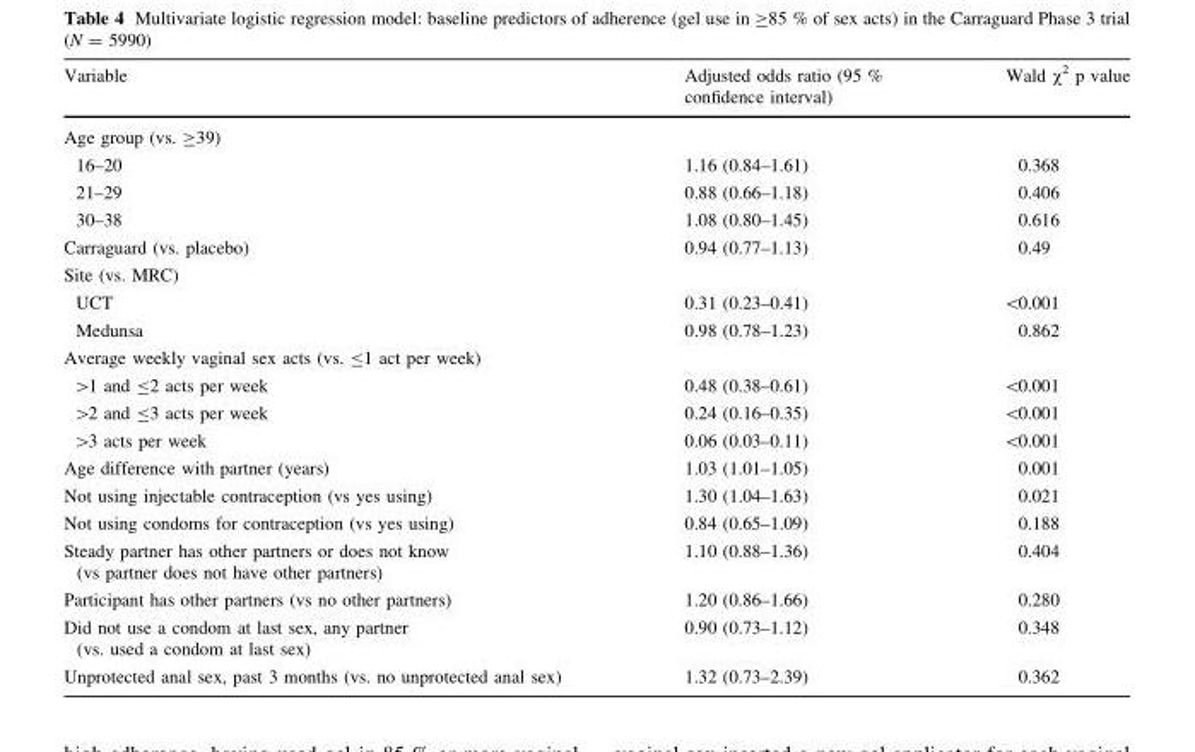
<table><thead><tr><td>Variable</td><td>Adjusted odds ratio (95 % confidence interval)</td><td>Wald χ<sup>2</sup> p value</td></tr></thead><tbody><tr><td colspan="3">Age group (vs. ≥39)</td></tr><tr><td>16–20</td><td>1.16 (0.84–1.61)</td><td>0.368</td></tr><tr><td>21–29</td><td>0.88 (0.66–1.18)</td><td>0.406</td></tr><tr><td>30–38</td><td>1.08 (0.80–1.45)</td><td>0.616</td></tr><tr><td>Carraguard (vs. placebo)</td><td>0.94 (0.77–1.13)</td><td>0.49</td></tr><tr><td colspan="3">Site (vs. MRC)</td></tr><tr><td>UCT</td><td>0.31 (0.23–0.41)</td><td>&lt;0.001</td></tr><tr><td>Medunsa</td><td>0.98 (0.78–1.23)</td><td>0.862</td></tr><tr><td colspan="3">Average weekly vaginal sex acts (vs. ≤1 act per week)</td></tr><tr><td>&gt;1 and ≤2 acts per week</td><td>0.48 (0.38–0.61)</td><td>&lt;0.001</td></tr><tr><td>&gt;2 and ≤3 acts per week</td><td>0.24 (0.16–0.35)</td><td>&lt;0.001</td></tr><tr><td>&gt;3 acts per week</td><td>0.06 (0.03–0.11)</td><td>&lt;0.001</td></tr><tr><td>Age difference with partner (years)</td><td>1.03 (1.01–1.05)</td><td>0.001</td></tr><tr><td>Not using injectable contraception (vs yes using)</td><td>1.30 (1.04–1.63)</td><td>0.021</td></tr><tr><td>Not using condoms for contraception (vs yes using)</td><td>0.84 (0.65–1.09)</td><td>0.188</td></tr><tr><td>Steady partner has other partners or does not know (vs partner does not have other partners)</td><td>1.10 (0.88–1.36)</td><td>0.404</td></tr><tr><td>Participant has other partners (vs no other partners)</td><td>1.20 (0.86–1.66)</td><td>0.280</td></tr><tr><td>Did not use a condom at last sex, any partner (vs. used a condom at last sex)</td><td>0.90 (0.73–1.12)</td><td>0.348</td></tr><tr><td>Unprotected anal sex, past 3 months (vs. no unprotected anal sex)</td><td>1.32 (0.73–2.39)</td><td>0.362</td></tr></tbody></table>